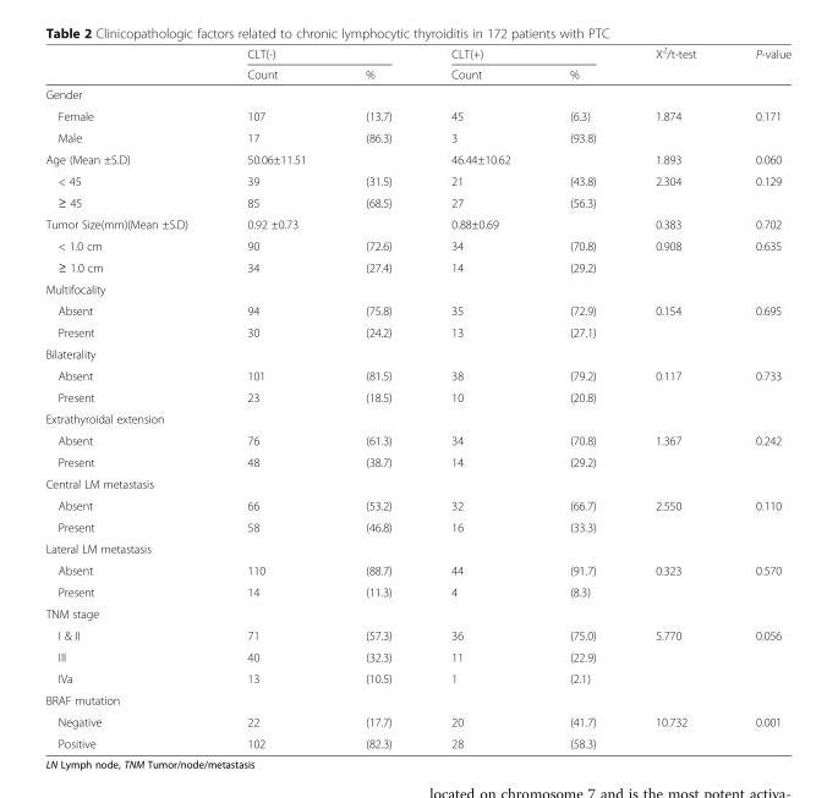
<table><thead><tr><td rowspan="2"></td><td colspan="2">CLT(-)</td><td colspan="2">CLT(+)</td><td rowspan="2">Χ<sup>2</sup>/t-test</td><td rowspan="2">P-value</td></tr><tr><td>Count</td><td>%</td><td>Count</td><td>%</td></tr></thead><tbody><tr><td colspan="7">Gender</td></tr><tr><td>Female</td><td>107</td><td>(13.7)</td><td>45</td><td>(6.3)</td><td>1.874</td><td>0.171</td></tr><tr><td>Male</td><td>17</td><td>(86.3)</td><td>3</td><td>(93.8)</td><td></td><td></td></tr><tr><td>Age (Mean ±S.D)</td><td>50.06±11.51</td><td></td><td>46.44±10.62</td><td></td><td>1.893</td><td>0.060</td></tr><tr><td>&lt; 45</td><td>39</td><td>(31.5)</td><td>21</td><td>(43.8)</td><td>2.304</td><td>0.129</td></tr><tr><td>≥ 45</td><td>85</td><td>(68.5)</td><td>27</td><td>(56.3)</td><td></td><td></td></tr><tr><td>Tumor Size(mm)(Mean ±S.D)</td><td>0.92 ±0.73</td><td></td><td>0.88±0.69</td><td></td><td>0.383</td><td>0.702</td></tr><tr><td>&lt; 1.0 cm</td><td>90</td><td>(72.6)</td><td>34</td><td>(70.8)</td><td>0.908</td><td>0.635</td></tr><tr><td>≥ 1.0 cm</td><td>34</td><td>(27.4)</td><td>14</td><td>(29.2)</td><td></td><td></td></tr><tr><td colspan="7">Multifocality</td></tr><tr><td>Absent</td><td>94</td><td>(75.8)</td><td>35</td><td>(72.9)</td><td>0.154</td><td>0.695</td></tr><tr><td>Present</td><td>30</td><td>(24.2)</td><td>13</td><td>(27.1)</td><td></td><td></td></tr><tr><td colspan="7">Bilaterality</td></tr><tr><td>Absent</td><td>101</td><td>(81.5)</td><td>38</td><td>(79.2)</td><td>0.117</td><td>0.733</td></tr><tr><td>Present</td><td>23</td><td>(18.5)</td><td>10</td><td>(20.8)</td><td></td><td></td></tr><tr><td colspan="7">Extrathyroidal extension</td></tr><tr><td>Absent</td><td>76</td><td>(61.3)</td><td>34</td><td>(70.8)</td><td>1.367</td><td>0.242</td></tr><tr><td>Present</td><td>48</td><td>(38.7)</td><td>14</td><td>(29.2)</td><td></td><td></td></tr><tr><td colspan="7">Central LM metastasis</td></tr><tr><td>Absent</td><td>66</td><td>(53.2)</td><td>32</td><td>(66.7)</td><td>2.550</td><td>0.110</td></tr><tr><td>Present</td><td>58</td><td>(46.8)</td><td>16</td><td>(33.3)</td><td></td><td></td></tr><tr><td colspan="7">Lateral LM metastasis</td></tr><tr><td>Absent</td><td>110</td><td>(88.7)</td><td>44</td><td>(91.7)</td><td>0.323</td><td>0.570</td></tr><tr><td>Present</td><td>14</td><td>(11.3)</td><td>4</td><td>(8.3)</td><td></td><td></td></tr><tr><td colspan="7">TNM stage</td></tr><tr><td>I &amp; II</td><td>71</td><td>(57.3)</td><td>36</td><td>(75.0)</td><td>5.770</td><td>0.056</td></tr><tr><td>III</td><td>40</td><td>(32.3)</td><td>11</td><td>(22.9)</td><td></td><td></td></tr><tr><td>IVa</td><td>13</td><td>(10.5)</td><td>1</td><td>(2.1)</td><td></td><td></td></tr><tr><td colspan="7">BRAF mutation</td></tr><tr><td>Negative</td><td>22</td><td>(17.7)</td><td>20</td><td>(41.7)</td><td>10.732</td><td>0.001</td></tr><tr><td>Positive</td><td>102</td><td>(82.3)</td><td>28</td><td>(58.3)</td><td></td><td></td></tr></tbody></table>